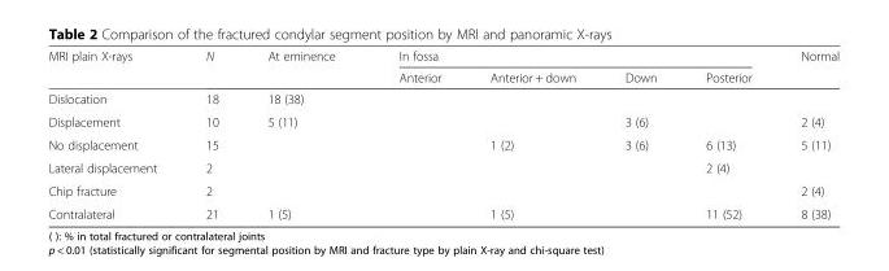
<table><thead><tr><td rowspan="2">MRI plain X-rays</td><td rowspan="2">N</td><td rowspan="2">At eminence</td><td colspan="4">In fossa</td><td rowspan="2">Normal</td></tr><tr><td>Anterior</td><td>Anterior + down</td><td>Down</td><td>Posterior</td></tr></thead><tbody><tr><td>Dislocation</td><td>18</td><td>18 (38)</td><td></td><td></td><td></td><td></td><td></td></tr><tr><td>Displacement</td><td>10</td><td>5 (11)</td><td></td><td></td><td>3 (6)</td><td></td><td>2 (4)</td></tr><tr><td>No displacement</td><td>15</td><td></td><td></td><td>1 (2)</td><td>3 (6)</td><td>6 (13)</td><td>5 (11)</td></tr><tr><td>Lateral displacement</td><td>2</td><td></td><td></td><td></td><td></td><td>2 (4)</td><td></td></tr><tr><td>Chip fracture</td><td>2</td><td></td><td></td><td></td><td></td><td></td><td>2 (4)</td></tr><tr><td>Contralateral</td><td>21</td><td>1 (5)</td><td></td><td>1 (5)</td><td></td><td>11 (52)</td><td>8 (38)</td></tr></tbody></table>